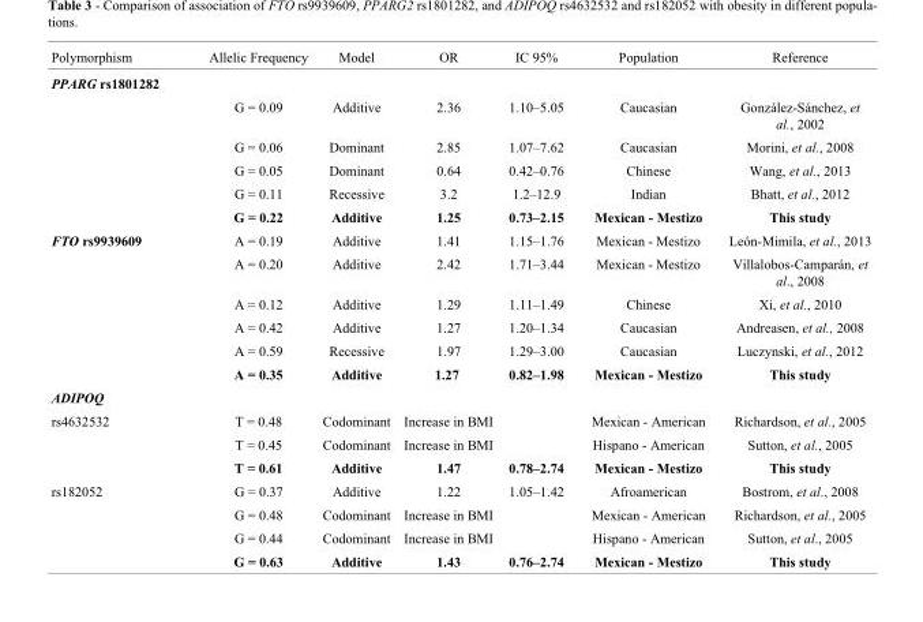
<table><thead><tr><td>Polymorphism</td><td>Allelic Frequency</td><td>Model</td><td>OR</td><td>IC 95%</td><td>Population</td><td>Reference</td></tr></thead><tbody><tr><td colspan="7">PPARG rs1801282</td></tr><tr><td></td><td>G = 0.09</td><td>Additive</td><td>2.36</td><td>1.10–5.05</td><td>Caucasian</td><td>González-Sánchez, et al., 2002</td></tr><tr><td></td><td>G = 0.06</td><td>Dominant</td><td>2.85</td><td>1.07–7.62</td><td>Caucasian</td><td>Morini, et al., 2008</td></tr><tr><td></td><td>G = 0.05</td><td>Dominant</td><td>0.64</td><td>0.42–0.76</td><td>Chinese</td><td>Wang, et al., 2013</td></tr><tr><td></td><td>G = 0.11</td><td>Recessive</td><td>3.2</td><td>1.2–12.9</td><td>Indian</td><td>Bhatt, et al., 2012</td></tr><tr><td></td><td>G = 0.22</td><td>Additive</td><td>1.25</td><td>0.73–2.15</td><td>Mexican - Mestizo</td><td>This study</td></tr><tr><td rowspan="6">FTO rs9939609</td><td>A = 0.19</td><td>Additive</td><td>1.41</td><td>1.15–1.76</td><td>Mexican - Mestizo</td><td>León-Mimila, et al., 2013</td></tr><tr><td>A = 0.20</td><td>Additive</td><td>2.42</td><td>1.71–3.44</td><td>Mexican - Mestizo</td><td>Villalobos-Camparán, et al., 2008</td></tr><tr><td>A = 0.12</td><td>Additive</td><td>1.29</td><td>1.11–1.49</td><td>Chinese</td><td>Xi, et al., 2010</td></tr><tr><td>A = 0.42</td><td>Additive</td><td>1.27</td><td>1.20–1.34</td><td>Caucasian</td><td>Andreasen, et al., 2008</td></tr><tr><td>A = 0.59</td><td>Recessive</td><td>1.97</td><td>1.29–3.00</td><td>Caucasian</td><td>Luczynski, et al., 2012</td></tr><tr><td>A = 0.35</td><td>Additive</td><td>1.27</td><td>0.82–1.98</td><td>Mexican - Mestizo</td><td>This study</td></tr><tr><td colspan="7">ADIPOQ</td></tr><tr><td rowspan="3">rs4632532</td><td>T = 0.48</td><td>Codominant</td><td>Increase in BMI</td><td></td><td>Mexican - American</td><td>Richardson, et al., 2005</td></tr><tr><td>T = 0.45</td><td>Codominant</td><td>Increase in BMI</td><td></td><td>Hispano - American</td><td>Sutton, et al., 2005</td></tr><tr><td>T = 0.61</td><td>Additive</td><td>1.47</td><td>0.78–2.74</td><td>Mexican - Mestizo</td><td>This study</td></tr><tr><td rowspan="4">rs182052</td><td>G = 0.37</td><td>Additive</td><td>1.22</td><td>1.05–1.42</td><td>Afroamerican</td><td>Bostrom, et al., 2008</td></tr><tr><td>G = 0.48</td><td>Codominant</td><td>Increase in BMI</td><td></td><td>Mexican - American</td><td>Richardson, et al., 2005</td></tr><tr><td>G = 0.44</td><td>Codominant</td><td>Increase in BMI</td><td></td><td>Hispano - American</td><td>Sutton, et al., 2005</td></tr><tr><td>G = 0.63</td><td>Additive</td><td>1.43</td><td>0.76–2.74</td><td>Mexican - Mestizo</td><td>This study</td></tr></tbody></table>